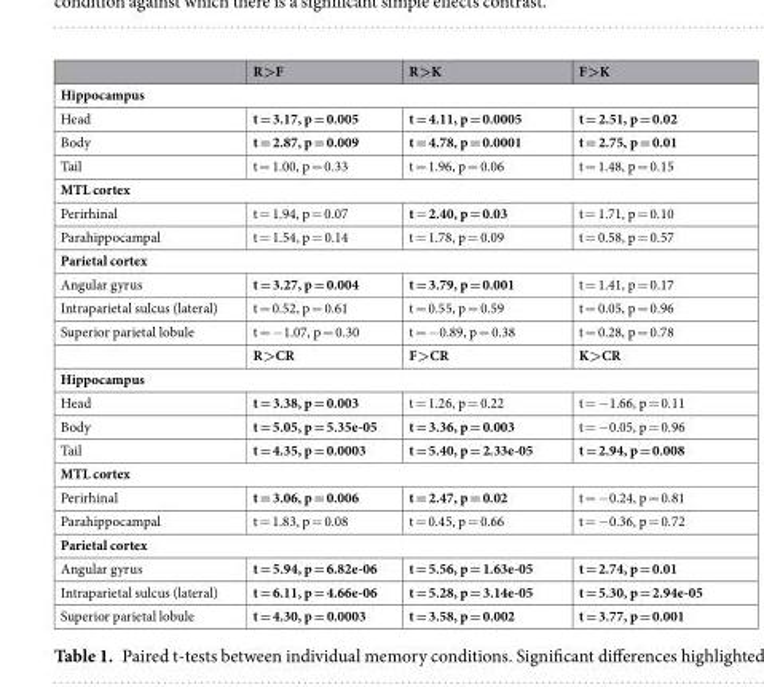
<table><thead><tr><td></td><td>R&gt;F</td><td>R&gt;K</td><td>F&gt;K</td></tr></thead><tbody><tr><td colspan="4">Hippocampus</td></tr><tr><td>Head</td><td>t = 3.17, p = 0.005</td><td>t = 4.11, p = 0.0005</td><td>t = 2.51, p = 0.02</td></tr><tr><td>Body</td><td>t = 2.87, p = 0.009</td><td>t = 4.78, p = 0.0001</td><td>t = 2.75, p = 0.01</td></tr><tr><td>Tail</td><td>t = 1.00, p = 0.33</td><td>t = 1.96, p = 0.06</td><td>t = 1.48, p = 0.15</td></tr><tr><td colspan="4">MTL cortex</td></tr><tr><td>Perirhinal</td><td>t = 1.94, p = 0.07</td><td>t = 2.40, p = 0.03</td><td>t = 1.71, p = 0.10</td></tr><tr><td>Parahippocampal</td><td>t = 1.54, p = 0.14</td><td>t = 1.78, p = 0.09</td><td>t = 0.58, p = 0.57</td></tr><tr><td colspan="4">Parietal cortex</td></tr><tr><td>Angular gyrus</td><td>t = 3.27, p = 0.004</td><td>t = 3.79, p = 0.001</td><td>t = 1.41, p = 0.17</td></tr><tr><td>Intraparietal sulcus (lateral)</td><td>t = 0.52, p = 0.61</td><td>t = 0.55, p = 0.59</td><td>t = 0.05, p = 0.96</td></tr><tr><td rowspan="2">Superior parietal lobule</td><td>t = −1.07, p = 0.30</td><td>t = −0.89, p = 0.38</td><td>t = 0.28, p = 0.78</td></tr><tr><td>R&gt;CR</td><td>F&gt;CR</td><td>K&gt;CR</td></tr><tr><td colspan="4">Hippocampus</td></tr><tr><td>Head</td><td>t = 3.38, p = 0.003</td><td>t = 1.26, p = 0.22</td><td>t = −1.66, p = 0.11</td></tr><tr><td>Body</td><td>t = 5.05, p = 5.35e-05</td><td>t = 3.36, p = 0.003</td><td>t = −0.05, p = 0.96</td></tr><tr><td>Tail</td><td>t = 4.35, p = 0.0003</td><td>t = 5.40, p = 2.33e-05</td><td>t = 2.94, p = 0.008</td></tr><tr><td colspan="4">MTL cortex</td></tr><tr><td>Perirhinal</td><td>t = 3.06, p = 0.006</td><td>t = 2.47, p = 0.02</td><td>t = −0.24, p = 0.81</td></tr><tr><td>Parahippocampal</td><td>t = 1.83, p = 0.08</td><td>t = 0.45, p = 0.66</td><td>t = −0.36, p = 0.72</td></tr><tr><td colspan="4">Parietal cortex</td></tr><tr><td>Angular gyrus</td><td>t = 5.94, p = 6.82e-06</td><td>t = 5.56, p = 1.63e-05</td><td>t = 2.74, p = 0.01</td></tr><tr><td>Intraparietal sulcus (lateral)</td><td>t = 6.11, p = 4.66e-06</td><td>t = 5.28, p = 3.14e-05</td><td>t = 5.30, p = 2.94e-05</td></tr><tr><td>Superior parietal lobule</td><td>t = 4.30, p = 0.0003</td><td>t = 3.58, p = 0.002</td><td>t = 3.77, p = 0.001</td></tr></tbody></table>